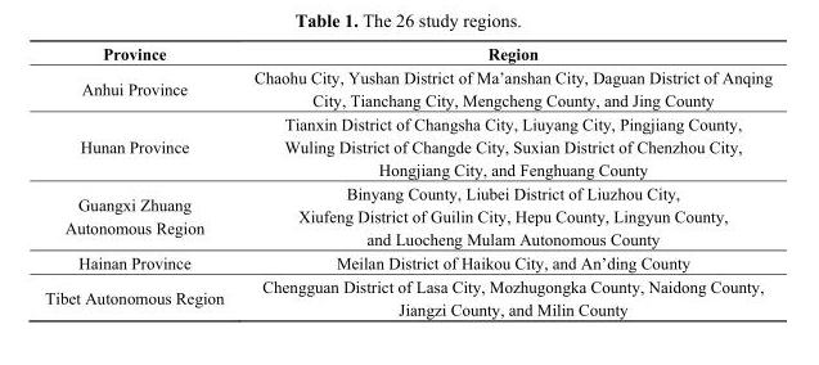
<table><thead><tr><td>Province</td><td>Region</td></tr></thead><tbody><tr><td>Anhui Province</td><td>Chaohu City, Yushan District of Ma’anshan City, Daguan District of Anqing City, Tianchang City, Mengcheng County, and Jing County</td></tr><tr><td>Hunan Province</td><td>Tianxin District of Changsha City, Liuyang City, Pingjiang County, Wuling District of Changde City, Suxian District of Chenzhou City, Hongjiang City, and Fenghuang County</td></tr><tr><td>Guangxi Zhuang Autonomous Region</td><td>Binyang County, Liubei District of Liuzhou City, Xiufeng District of Guilin City, Hepu County, Lingyun County, and Luocheng Mulam Autonomous County</td></tr><tr><td>Hainan Province</td><td>Meilan District of Haikou City, and An’ding County</td></tr><tr><td>Tibet Autonomous Region</td><td>Chengguan District of Lasa City, Mozhugongka County, Naidong County, Jiangzi County, and Milin County</td></tr></tbody></table>